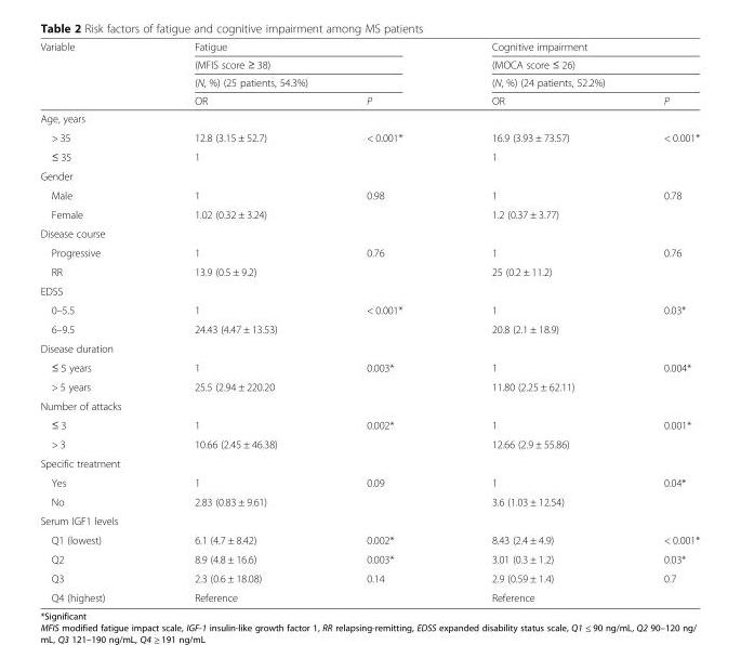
<table><thead><tr><td rowspan="4">Variable</td><td rowspan="3" colspan="2">Fatigue (MFIS score ≥ 38) (N, %) (25 patients, 54.3%)</td><td rowspan="3" colspan="2">Cognitive impairment (MOCA score ≤ 26) (N, %) (24 patients, 52.2%)</td></tr><tr></tr><tr></tr><tr><td>OR</td><td>P</td><td>OR</td><td>P</td></tr></thead><tbody><tr><td colspan="5">Age, years</td></tr><tr><td>&gt; 35</td><td>12.8 (3.15 ± 52.7)</td><td rowspan="2">&lt; 0.001*</td><td>16.9 (3.93 ± 73.57)</td><td rowspan="2">&lt; 0.001*</td></tr><tr><td>≤ 35</td><td>1</td><td>1</td></tr><tr><td colspan="5">Gender</td></tr><tr><td>Male</td><td>1</td><td rowspan="2">0.98</td><td>1</td><td rowspan="2">0.78</td></tr><tr><td>Female</td><td>1.02 (0.32 ± 3.24)</td><td>1.2 (0.37 ± 3.77)</td></tr><tr><td colspan="5">Disease course</td></tr><tr><td>Progressive</td><td>1</td><td rowspan="2">0.76</td><td>1</td><td rowspan="2">0.76</td></tr><tr><td>RR</td><td>13.9 (0.5 ± 9.2)</td><td>25 (0.2 ± 11.2)</td></tr><tr><td colspan="5">EDSS</td></tr><tr><td>0–5.5</td><td>1</td><td rowspan="2">&lt; 0.001*</td><td>1</td><td rowspan="2">0.03*</td></tr><tr><td>6–9.5</td><td>24.43 (4.47 ± 13.53)</td><td>20.8 (2.1 ± 18.9)</td></tr><tr><td colspan="5">Disease duration</td></tr><tr><td>≤ 5 years</td><td>1</td><td rowspan="2">0.003*</td><td>1</td><td rowspan="2">0.004*</td></tr><tr><td>&gt; 5 years</td><td>25.5 (2.94 ± 220.20</td><td>11.80 (2.25 ± 62.11)</td></tr><tr><td colspan="5">Number of attacks</td></tr><tr><td>≤ 3</td><td>1</td><td rowspan="2">0.002*</td><td>1</td><td rowspan="2">0.001*</td></tr><tr><td>&gt; 3</td><td>10.66 (2.45 ± 46.38)</td><td>12.66 (2.9 ± 55.86)</td></tr><tr><td colspan="5">Specific treatment</td></tr><tr><td>Yes</td><td>1</td><td rowspan="2">0.09</td><td>1</td><td rowspan="2">0.04*</td></tr><tr><td>No</td><td>2.83 (0.83 ± 9.61)</td><td>3.6 (1.03 ± 12.54)</td></tr><tr><td colspan="5">Serum IGF1 levels</td></tr><tr><td>Q1 (lowest)</td><td>6.1 (4.7 ± 8.42)</td><td>0.002*</td><td>8.43 (2.4 ± 4.9)</td><td>&lt; 0.001*</td></tr><tr><td>Q2</td><td>8.9 (4.8 ± 16.6)</td><td>0.003*</td><td>3.01 (0.3 ± 1.2)</td><td>0.03*</td></tr><tr><td>Q3</td><td>2.3 (0.6 ± 18.08)</td><td>0.14</td><td>2.9 (0.59 ± 1.4)</td><td>0.7</td></tr><tr><td>Q4 (highest)</td><td>Reference</td><td></td><td>Reference</td><td></td></tr></tbody></table>